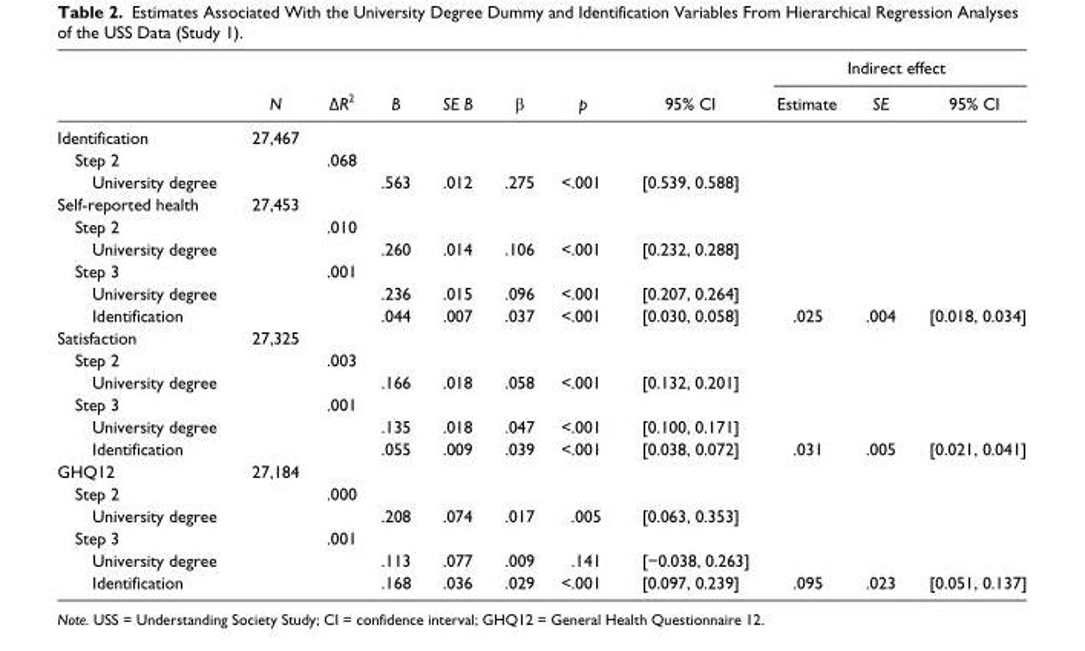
<table><thead><tr><td rowspan="2"></td><td rowspan="2">N</td><td rowspan="2">ΔR<sup>2</sup></td><td rowspan="2">B</td><td rowspan="2">SE B</td><td rowspan="2">β</td><td rowspan="2">p</td><td rowspan="2">95% CI</td><td colspan="3">Indirect effect</td></tr><tr><td>Estimate</td><td>SE</td><td>95% CI</td></tr></thead><tbody><tr><td>Identification</td><td>27,467</td><td></td><td></td><td></td><td></td><td></td><td></td><td></td><td></td><td></td></tr><tr><td>Step 2</td><td></td><td>.068</td><td></td><td></td><td></td><td></td><td></td><td></td><td></td><td></td></tr><tr><td>University degree</td><td></td><td></td><td>.563</td><td>.012</td><td>.275</td><td>&lt;.001</td><td>[0.539, 0.588]</td><td></td><td></td><td></td></tr><tr><td>Self-reported health</td><td>27,453</td><td></td><td></td><td></td><td></td><td></td><td></td><td></td><td></td><td></td></tr><tr><td>Step 2</td><td></td><td>.010</td><td></td><td></td><td></td><td></td><td></td><td></td><td></td><td></td></tr><tr><td>University degree</td><td></td><td></td><td>.260</td><td>.014</td><td>.106</td><td>&lt;.001</td><td>[0.232, 0.288]</td><td></td><td></td><td></td></tr><tr><td>Step 3</td><td></td><td>.001</td><td></td><td></td><td></td><td></td><td></td><td></td><td></td><td></td></tr><tr><td>University degree</td><td></td><td></td><td>.236</td><td>.015</td><td>.096</td><td>&lt;.001</td><td>[0.207, 0.264]</td><td></td><td></td><td></td></tr><tr><td>Identification</td><td></td><td></td><td>.044</td><td>.007</td><td>.037</td><td>&lt;.001</td><td>[0.030, 0.058]</td><td>.025</td><td>.004</td><td>[0.018, 0.034]</td></tr><tr><td>Satisfaction</td><td>27,325</td><td></td><td></td><td></td><td></td><td></td><td></td><td></td><td></td><td></td></tr><tr><td>Step 2</td><td></td><td>.003</td><td></td><td></td><td></td><td></td><td></td><td></td><td></td><td></td></tr><tr><td>University degree</td><td></td><td></td><td>.166</td><td>.018</td><td>.058</td><td>&lt;.001</td><td>[0.132, 0.201]</td><td></td><td></td><td></td></tr><tr><td>Step 3</td><td></td><td>.001</td><td></td><td></td><td></td><td></td><td></td><td></td><td></td><td></td></tr><tr><td>University degree</td><td></td><td></td><td>.135</td><td>.018</td><td>.047</td><td>&lt;.001</td><td>[0.100, 0.171]</td><td></td><td></td><td></td></tr><tr><td>Identification</td><td></td><td></td><td>.055</td><td>.009</td><td>.039</td><td>&lt;.001</td><td>[0.038, 0.072]</td><td>.031</td><td>.005</td><td>[0.021, 0.041]</td></tr><tr><td>GHQ12</td><td>27,184</td><td></td><td></td><td></td><td></td><td></td><td></td><td></td><td></td><td></td></tr><tr><td>Step 2</td><td></td><td>.000</td><td></td><td></td><td></td><td></td><td></td><td></td><td></td><td></td></tr><tr><td>University degree</td><td></td><td></td><td>.208</td><td>.074</td><td>.017</td><td>.005</td><td>[0.063, 0.353]</td><td></td><td></td><td></td></tr><tr><td>Step 3</td><td></td><td>.001</td><td></td><td></td><td></td><td></td><td></td><td></td><td></td><td></td></tr><tr><td>University degree</td><td></td><td></td><td>.113</td><td>.077</td><td>.009</td><td>.141</td><td>[−0.038, 0.263]</td><td></td><td></td><td></td></tr><tr><td>Identification</td><td></td><td></td><td>.168</td><td>.036</td><td>.029</td><td>&lt;.001</td><td>[0.097, 0.239]</td><td>.095</td><td>.023</td><td>[0.051, 0.137]</td></tr></tbody></table>